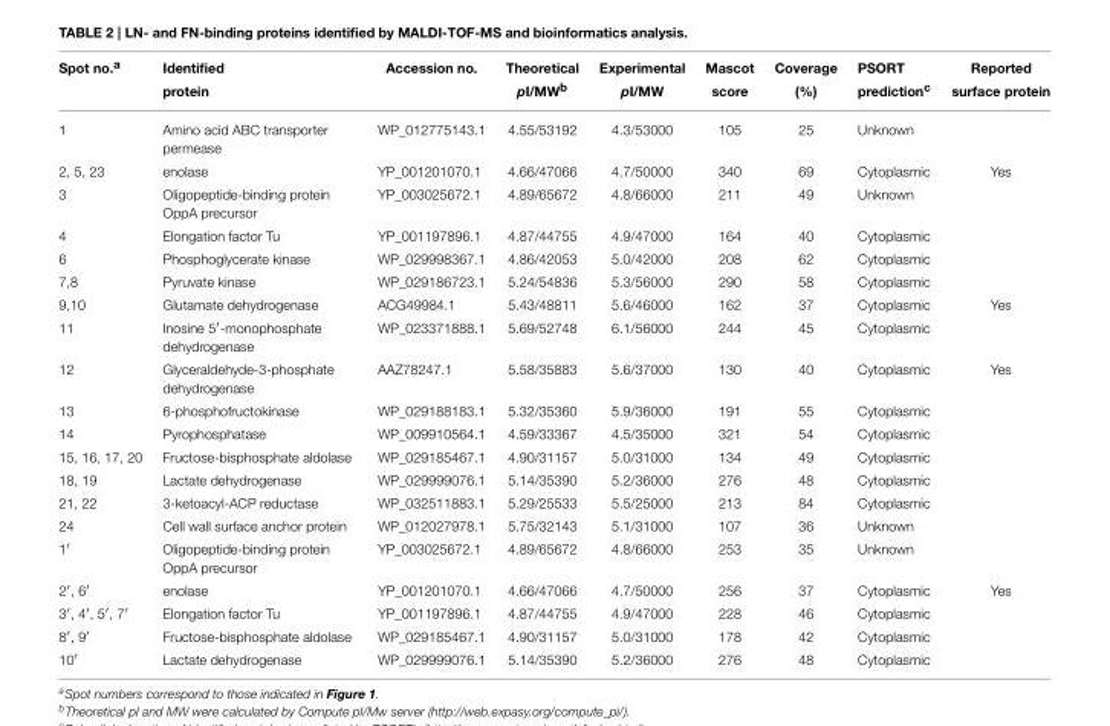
<table><thead><tr><td>Spot no.<sup>a</sup></td><td>Identified protein</td><td>Accession no.</td><td>Theoretical pI/MW<sup>b</sup></td><td>Experimental pI/MW</td><td>Mascot score</td><td>Coverage (%)</td><td>PSORT prediction<sup>c</sup></td><td>Reported surface protein</td></tr></thead><tbody><tr><td>1</td><td>Amino acid ABC transporter permease</td><td>WP_012775143.1</td><td>4.55/53192</td><td>4.3/53000</td><td>105</td><td>25</td><td>Unknown</td><td></td></tr><tr><td>2, 5, 23</td><td>enolase</td><td>YP_001201070.1</td><td>4.66/47066</td><td>4.7/50000</td><td>340</td><td>69</td><td>Cytoplasmic</td><td>Yes</td></tr><tr><td>3</td><td>Oligopeptide-binding protein OppA precursor</td><td>YP_003025672.1</td><td>4.89/65672</td><td>4.8/66000</td><td>211</td><td>49</td><td>Unknown</td><td></td></tr><tr><td>4</td><td>Elongation factor Tu</td><td>YP_001197896.1</td><td>4.87/44755</td><td>4.9/47000</td><td>164</td><td>40</td><td>Cytoplasmic</td><td></td></tr><tr><td>6</td><td>Phosphoglycerate kinase</td><td>WP_029998367.1</td><td>4.86/42053</td><td>5.0/42000</td><td>208</td><td>62</td><td>Cytoplasmic</td><td></td></tr><tr><td>7,8</td><td>Pyruvate kinase</td><td>WP_029186723.1</td><td>5.24/54836</td><td>5.3/56000</td><td>290</td><td>58</td><td>Cytoplasmic</td><td></td></tr><tr><td>9,10</td><td>Glutamate dehydrogenase</td><td>ACG49984.1</td><td>5.43/48811</td><td>5.6/46000</td><td>162</td><td>37</td><td>Cytoplasmic</td><td>Yes</td></tr><tr><td>11</td><td>Inosine 5′-monophosphate dehydrogenase</td><td>WP_023371888.1</td><td>5.69/52748</td><td>6.1/56000</td><td>244</td><td>45</td><td>Cytoplasmic</td><td></td></tr><tr><td>12</td><td>Glyceraldehyde-3-phosphate dehydrogenase</td><td>AAZ78247.1</td><td>5.58/35883</td><td>5.6/37000</td><td>130</td><td>40</td><td>Cytoplasmic</td><td>Yes</td></tr><tr><td>13</td><td>6-phosphofructokinase</td><td>WP_029188183.1</td><td>5.32/35360</td><td>5.9/36000</td><td>191</td><td>55</td><td>Cytoplasmic</td><td></td></tr><tr><td>14</td><td>Pyrophosphatase</td><td>WP_009910564.1</td><td>4.59/33367</td><td>4.5/35000</td><td>321</td><td>54</td><td>Cytoplasmic</td><td></td></tr><tr><td>15, 16, 17, 20</td><td>Fructose-bisphosphate aldolase</td><td>WP_029185467.1</td><td>4.90/31157</td><td>5.0/31000</td><td>134</td><td>49</td><td>Cytoplasmic</td><td></td></tr><tr><td>18, 19</td><td>Lactate dehydrogenase</td><td>WP_029999076.1</td><td>5.14/35390</td><td>5.2/36000</td><td>276</td><td>48</td><td>Cytoplasmic</td><td></td></tr><tr><td>21, 22</td><td>3-ketoacyl-ACP reductase</td><td>WP_032511883.1</td><td>5.29/25533</td><td>5.5/25000</td><td>213</td><td>84</td><td>Cytoplasmic</td><td></td></tr><tr><td>24</td><td>Cell wall surface anchor protein</td><td>WP_012027978.1</td><td>5.75/32143</td><td>5.1/31000</td><td>107</td><td>36</td><td>Unknown</td><td></td></tr><tr><td>1′</td><td>Oligopeptide-binding protein OppA precursor</td><td>YP_003025672.1</td><td>4.89/65672</td><td>4.8/66000</td><td>253</td><td>35</td><td>Unknown</td><td></td></tr><tr><td>2′, 6′</td><td>enolase</td><td>YP_001201070.1</td><td>4.66/47066</td><td>4.7/50000</td><td>256</td><td>37</td><td>Cytoplasmic</td><td>Yes</td></tr><tr><td>3′, 4′, 5′, 7′</td><td>Elongation factor Tu</td><td>YP_001197896.1</td><td>4.87/44755</td><td>4.9/47000</td><td>228</td><td>46</td><td>Cytoplasmic</td><td></td></tr><tr><td>8′, 9′</td><td>Fructose-bisphosphate aldolase</td><td>WP_029185467.1</td><td>4.90/31157</td><td>5.0/31000</td><td>178</td><td>42</td><td>Cytoplasmic</td><td></td></tr><tr><td>10′</td><td>Lactate dehydrogenase</td><td>WP_029999076.1</td><td>5.14/35390</td><td>5.2/36000</td><td>276</td><td>48</td><td>Cytoplasmic</td><td></td></tr></tbody></table>